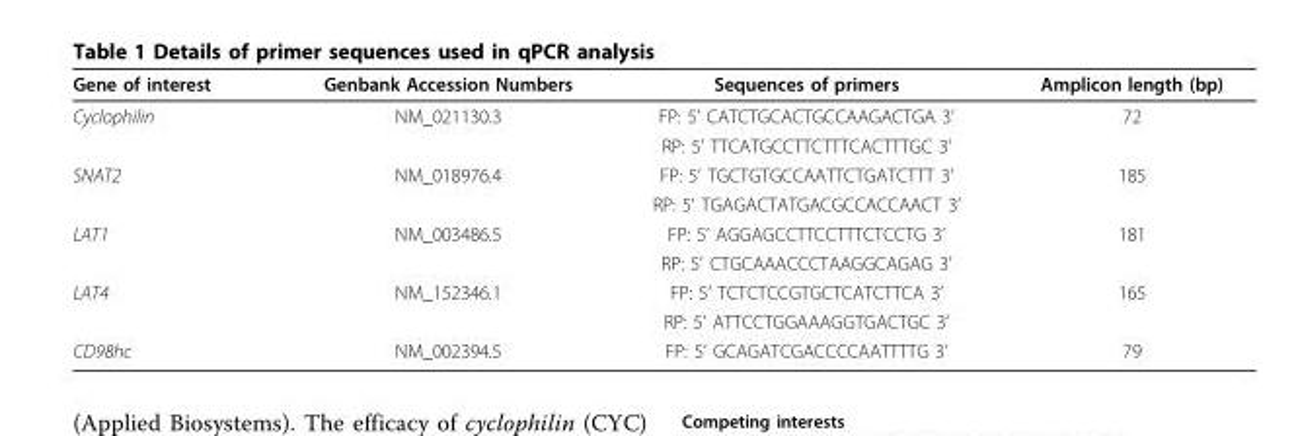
<table><thead><tr><td>Gene of interest</td><td>Genbank Accession Numbers</td><td>Sequences of primers</td><td>Amplicon length (bp)</td></tr></thead><tbody><tr><td rowspan="2">Cyclophilin</td><td>NM_021130.3</td><td>FP: 5’ CATCTGCACTGCCAAGACTGA 3’</td><td>72</td></tr><tr><td></td><td>RP: 5’ TTCATGCCTTCTTTCACTTTGC 3’</td><td></td></tr><tr><td rowspan="2">SNAT2</td><td>NM_018976.4</td><td>FP: 5’ TGCTGTGCCAATTCTGATCTTT 3’</td><td>185</td></tr><tr><td></td><td>RP: 5’ TGAGACTATGACGCCACCAACT 3’</td><td></td></tr><tr><td rowspan="2">LAT1</td><td>NM_003486.5</td><td>FP: 5’ AGGAGCCTTCCTTTCTCCTG 3’</td><td>181</td></tr><tr><td></td><td>RP: 5’ CTGCAAACCCTAAGGCAGAG 3’</td><td></td></tr><tr><td rowspan="2">LAT4</td><td>NM_152346.1</td><td>FP: 5’ TCTCTCCGTGCTCATCTTCA 3’</td><td>165</td></tr><tr><td></td><td>RP: 5’ ATTCCTGGAAAGGTGACTGC 3’</td><td></td></tr><tr><td>CD98hc</td><td>NM_002394.5</td><td>FP: 5’ GCAGATCGACCCCAATTTTG 3’</td><td>79</td></tr></tbody></table>